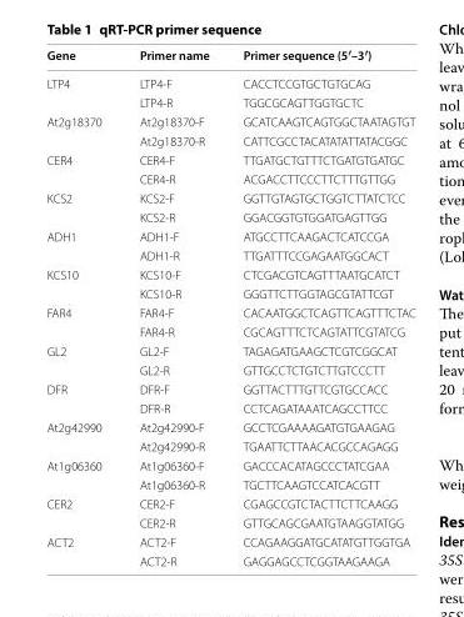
<table><thead><tr><td>Gene</td><td>Primer name</td><td>Primer sequence (5′–3′)</td></tr></thead><tbody><tr><td rowspan="2">LTP4</td><td>LTP4‑F</td><td>CACCTCCGTGCTGTGCAG</td></tr><tr><td>LTP4‑R</td><td>TGGCGCAGTTGGTGCTC</td></tr><tr><td rowspan="2">At2g18370</td><td>At2g18370‑F</td><td>GCATCAAGTCAGTGGCTAATAGTGT</td></tr><tr><td>At2g18370‑R</td><td>CATTCGCCTACATATATTATACGGC</td></tr><tr><td rowspan="2">CER4</td><td>CER4‑F</td><td>TTGATGCTGTTTCTGATGTGATGC</td></tr><tr><td>CER4‑R</td><td>ACGACCTTCCCTTCTTTGTTGG</td></tr><tr><td rowspan="2">KCS2</td><td>KCS2‑F</td><td>GGTTGTAGTGCTGGTCTTATCTCC</td></tr><tr><td>KCS2‑R</td><td>GGACGGTGTGGATGAGTTGG</td></tr><tr><td rowspan="2">ADH1</td><td>ADH1‑F</td><td>ATGCCTTCAAGACTCATCCGA</td></tr><tr><td>ADH1‑R</td><td>TTGATTTCCGAGAATGGCACT</td></tr><tr><td rowspan="2">KCS10</td><td>KCS10‑F</td><td>CTCGACGTCAGTTTAATGCATCT</td></tr><tr><td>KCS10‑R</td><td>GGGTTCTTGGTAGCGTATTCGT</td></tr><tr><td rowspan="2">FAR4</td><td>FAR4‑F</td><td>CACAATGGCTCAGTTCAGTTTCTAC</td></tr><tr><td>FAR4‑R</td><td>CGCAGTTTCTCAGTATTCGTATCG</td></tr><tr><td rowspan="2">GL2</td><td>GL2‑F</td><td>TAGAGATGAAGCTCGTCGGCAT</td></tr><tr><td>GL2‑R</td><td>GTTGCCTCTGTCTTGTCCCTT</td></tr><tr><td rowspan="2">DFR</td><td>DFR‑F</td><td>GGTTACTTTGTTCGTGCCACC</td></tr><tr><td>DFR‑R</td><td>CCTCAGATAAATCAGCCTTCC</td></tr><tr><td rowspan="2">At2g42990</td><td>At2g42990‑F</td><td>GCCTCGAAAAGATGTGAAGAG</td></tr><tr><td>At2g42990‑R</td><td>TGAATTCTTAACACGCCAGAGG</td></tr><tr><td rowspan="2">At1g06360</td><td>At1g06360‑F</td><td>GACCCACATAGCCCTATCGAA</td></tr><tr><td>At1g06360‑R</td><td>TGCTTCAAGTCCATCACGTT</td></tr><tr><td rowspan="2">CER2</td><td>CER2‑F</td><td>CGAGCCGTCTACTTCTTCAAGG</td></tr><tr><td>CER2‑R</td><td>GTTGCAGCGAATGTAAGGTATGG</td></tr><tr><td rowspan="2">ACT2</td><td>ACT2‑F</td><td>CCAGAAGGATGCATATGTTGGTGA</td></tr><tr><td>ACT2‑R</td><td>GAGGAGCCTCGGTAAGAAGA</td></tr></tbody></table>